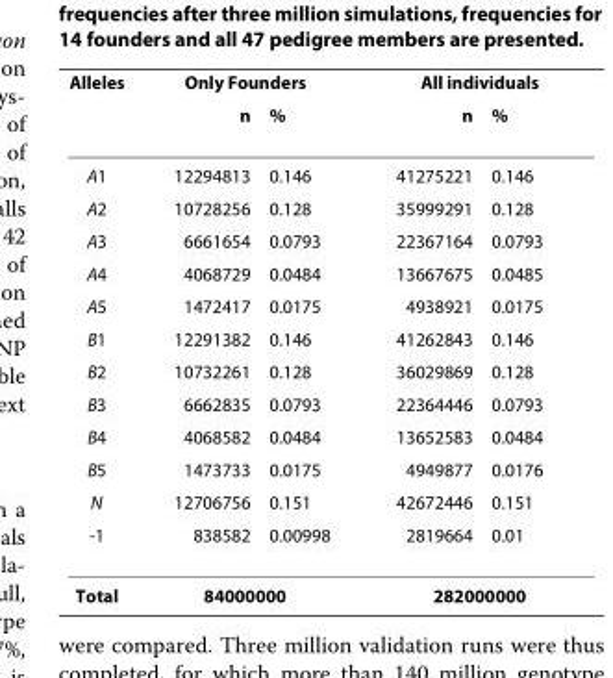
<table><thead><tr><td rowspan="2">Alleles</td><td colspan="2">Only Founders</td><td colspan="2">All individuals</td></tr><tr><td>n</td><td>%</td><td>n</td><td>%</td></tr></thead><tbody><tr><td>A1</td><td>12294813</td><td>0.146</td><td>41275221</td><td>0.146</td></tr><tr><td>A2</td><td>10728256</td><td>0.128</td><td>35999291</td><td>0.128</td></tr><tr><td>A3</td><td>6661654</td><td>0.0793</td><td>22367164</td><td>0.0793</td></tr><tr><td>A4</td><td>4068729</td><td>0.0484</td><td>13667675</td><td>0.0485</td></tr><tr><td>A5</td><td>1472417</td><td>0.0175</td><td>4938921</td><td>0.0175</td></tr><tr><td>B1</td><td>12291382</td><td>0.146</td><td>41262843</td><td>0.146</td></tr><tr><td>B2</td><td>10732261</td><td>0.128</td><td>36029869</td><td>0.128</td></tr><tr><td>B3</td><td>6662835</td><td>0.0793</td><td>22364446</td><td>0.0793</td></tr><tr><td>B4</td><td>4068582</td><td>0.0484</td><td>13652583</td><td>0.0484</td></tr><tr><td>B5</td><td>1473733</td><td>0.0175</td><td>4949877</td><td>0.0176</td></tr><tr><td>N</td><td>12706756</td><td>0.151</td><td>42672446</td><td>0.151</td></tr><tr><td>-1</td><td>838582</td><td>0.00998</td><td>2819664</td><td>0.01</td></tr><tr><td>Total</td><td colspan="2">84000000</td><td colspan="2">282000000</td></tr></tbody></table>